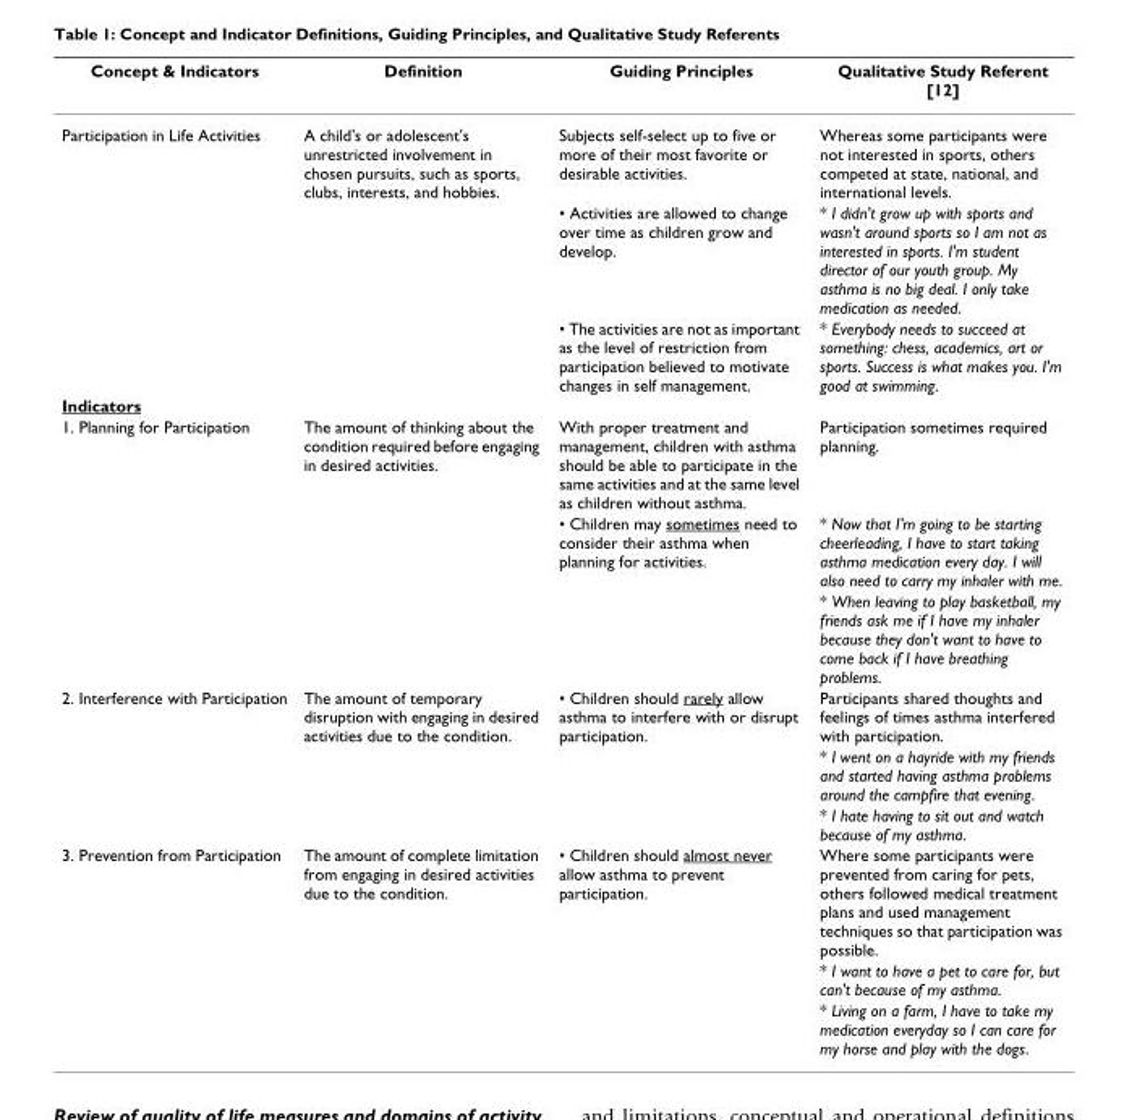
<table><thead><tr><td>Concept &amp; Indicators</td><td>Definition</td><td>Guiding Principles</td><td>Qualitative Study Referent [12]</td></tr></thead><tbody><tr><td rowspan="3">Participation in Life Activities</td><td>A child&#x27;s or adolescent&#x27;s unrestricted involvement in chosen pursuits, such as sports, clubs, interests, and hobbies.</td><td>Subjects self-select up to five or more of their most favorite or desirable activities.</td><td>Whereas some participants were not interested in sports, others competed at state, national, and international levels.</td></tr><tr><td></td><td>• Activities are allowed to change over time as children grow and develop.</td><td>* I didn&#x27;t grow up with sports and wasn&#x27;t around sports so I am not as interested in sports. I&#x27;m student director of our youth group. My asthma is no big deal. I only take medication as needed.</td></tr><tr><td></td><td>• The activities are not as important as the level of restriction from participation believed to motivate changes in self management.</td><td>* Everybody needs to succeed at something: chess, academics, art or sports. Success is what makes you. I&#x27;m good at swimming.</td></tr><tr><td colspan="4">Indicators</td></tr><tr><td rowspan="3">1. Planning for Participation</td><td>The amount of thinking about the condition required before engaging in desired activities.</td><td>With proper treatment and management, children with asthma should be able to participate in the same activities and at the same level as children without asthma.</td><td>Participation sometimes required planning.</td></tr><tr><td></td><td>• Children may sometimes need to consider their asthma when planning for activities.</td><td>* Now that I&#x27;m going to be starting cheerleading, I have to start taking asthma medication every day. I will also need to carry my inhaler with me.</td></tr><tr><td></td><td></td><td>* When leaving to play basketball, my friends ask me if I have my inhaler because they don&#x27;t want to have to come back if I have breathing problems.</td></tr><tr><td rowspan="3">2. Interference with Participation</td><td>The amount of temporary disruption with engaging in desired activities due to the condition.</td><td>• Children should rarely allow asthma to interfere with or disrupt participation.</td><td>Participants shared thoughts and feelings of times asthma interfered with participation.</td></tr><tr><td></td><td></td><td>* I went on a hayride with my friends and started having asthma problems around the campfire that evening.</td></tr><tr><td></td><td></td><td>* I hate having to sit out and watch because of my asthma.</td></tr><tr><td rowspan="3">3. Prevention from Participation</td><td>The amount of complete limitation from engaging in desired activities due to the condition.</td><td>• Children should almost never allow asthma to prevent participation.</td><td>Where some participants were prevented from caring for pets, others followed medical treatment plans and used management techniques so that participation was possible.</td></tr><tr><td></td><td></td><td>* I want to have a pet to care for, but can&#x27;t because of my asthma.</td></tr><tr><td></td><td></td><td>* Living on a farm, I have to take my medication everyday so I can care for my horse and play with the dogs.</td></tr></tbody></table>